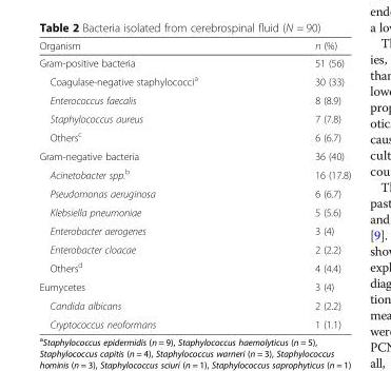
<table><thead><tr><td>Organism</td><td>n (%)</td></tr></thead><tbody><tr><td>Gram-positive bacteria</td><td>51 (56)</td></tr><tr><td>Coagulase-negative staphylococci<sup>a</sup></td><td>30 (33)</td></tr><tr><td>Enterococcus faecalis</td><td>8 (8.9)</td></tr><tr><td>Staphylococcus aureus</td><td>7 (7.8)</td></tr><tr><td>Others<sup>c</sup></td><td>6 (6.7)</td></tr><tr><td>Gram-negative bacteria</td><td>36 (40)</td></tr><tr><td>Acinetobacter spp.<sup>b</sup></td><td>16 (17.8)</td></tr><tr><td>Pseudomonas aeruginosa</td><td>6 (6.7)</td></tr><tr><td>Klebsiella pneumoniae</td><td>5 (5.6)</td></tr><tr><td>Enterobacter aerogenes</td><td>3 (4)</td></tr><tr><td>Enterobacter cloacae</td><td>2 (2.2)</td></tr><tr><td>Others<sup>d</sup></td><td>4 (4.4)</td></tr><tr><td>Eumycetes</td><td>3 (4)</td></tr><tr><td>Candida albicans</td><td>2 (2.2)</td></tr><tr><td>Cryptococcus neoformans</td><td>1 (1.1)</td></tr></tbody></table>